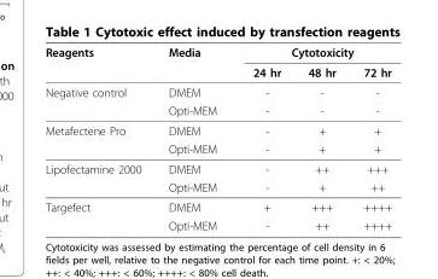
<table><thead><tr><td rowspan="2">Reagents</td><td rowspan="2">Media</td><td colspan="3">Cytotoxicity</td></tr><tr><td>24 hr</td><td>48 hr</td><td>72 hr</td></tr></thead><tbody><tr><td rowspan="2">Negative control</td><td>DMEM</td><td>-</td><td>-</td><td>-</td></tr><tr><td>Opti-MEM</td><td>-</td><td>-</td><td>-</td></tr><tr><td rowspan="2">Metafectene Pro</td><td>DMEM</td><td>-</td><td>+</td><td>+</td></tr><tr><td>Opti-MEM</td><td>-</td><td>+</td><td>+</td></tr><tr><td rowspan="2">Lipofectamine 2000</td><td>DMEM</td><td>-</td><td>++</td><td>+++</td></tr><tr><td>Opti-MEM</td><td>-</td><td>+</td><td>++</td></tr><tr><td rowspan="2">Targefect</td><td>DMEM</td><td>+</td><td>+++</td><td>++++</td></tr><tr><td>Opti-MEM</td><td>-</td><td>++</td><td>++++</td></tr></tbody></table>